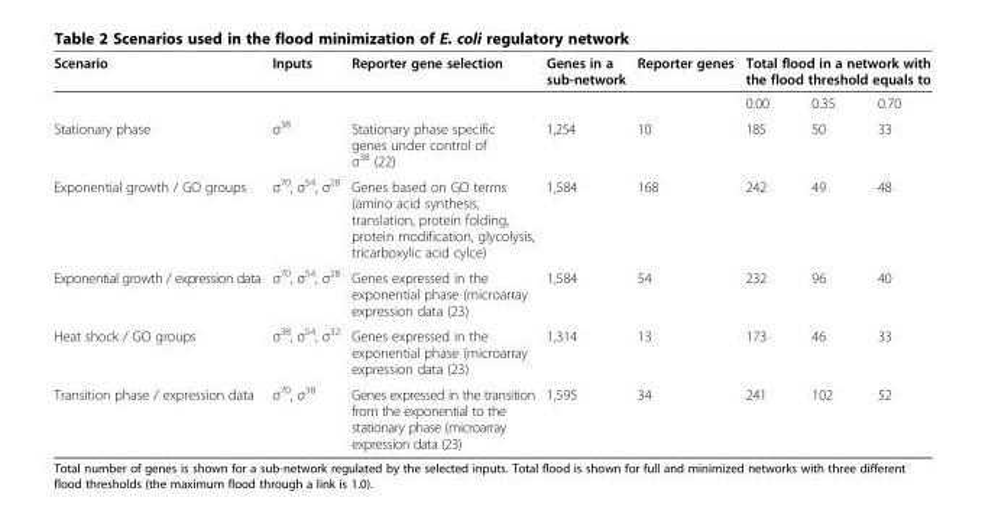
<table><thead><tr><td rowspan="2">Scenario</td><td rowspan="2">Inputs</td><td rowspan="2">Reporter gene selection</td><td rowspan="2">Genes in a sub-network</td><td rowspan="2">Reporter genes</td><td colspan="3">Total flood in a network with the flood threshold equals to</td></tr><tr><td>0.00</td><td>0.35</td><td>0.70</td></tr></thead><tbody><tr><td>Stationary phase</td><td>σ<sup>38</sup></td><td>Stationary phase specific genes under control of σ<sup>38</sup> (22)</td><td>1,254</td><td>10</td><td>185</td><td>50</td><td>33</td></tr><tr><td>Exponential growth / GO groups</td><td>σ<sup>70</sup>, σ<sup>54</sup>, σ<sup>28</sup></td><td>Genes based on GO terms (amino acid synthesis, translation, protein folding, protein modification, glycolysis, tricarboxylic acid cylce)</td><td>1,584</td><td>168</td><td>242</td><td>49</td><td>48</td></tr><tr><td>Exponential growth / expression data</td><td>σ<sup>70</sup>, σ<sup>54</sup>, σ<sup>28</sup></td><td>Genes expressed in the exponential phase (microarray expression data (23)</td><td>1,584</td><td>54</td><td>232</td><td>96</td><td>40</td></tr><tr><td>Heat shock / GO groups</td><td>σ<sup>38</sup>, σ<sup>54</sup>, σ<sup>32</sup></td><td>Genes expressed in the exponential phase (microarray expression data (23)</td><td>1,314</td><td>13</td><td>173</td><td>46</td><td>33</td></tr><tr><td>Transition phase / expression data</td><td>σ<sup>70</sup>, σ<sup>38</sup></td><td>Genes expressed in the transition from the exponential to the stationary phase (microarray expression data (23)</td><td>1,595</td><td>34</td><td>241</td><td>102</td><td>52</td></tr></tbody></table>